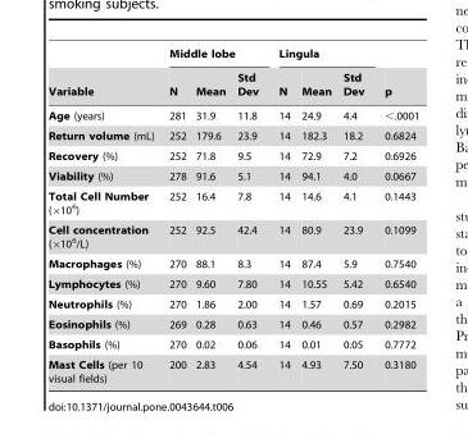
<table><thead><tr><td rowspan="2">Variable</td><td colspan="3">Middle lobe</td><td colspan="3">Lingula</td><td rowspan="2">p</td></tr><tr><td>N</td><td>Mean</td><td>Std Dev</td><td>N</td><td>Mean</td><td>Std Dev</td></tr></thead><tbody><tr><td>Age (years)</td><td>281</td><td>31.9</td><td>11.8</td><td>14</td><td>24.9</td><td>4.4</td><td>&lt;.0001</td></tr><tr><td>Return volume (mL)</td><td>252</td><td>179.6</td><td>23.9</td><td>14</td><td>182.3</td><td>18.2</td><td>0.6824</td></tr><tr><td>Recovery (%)</td><td>252</td><td>71.8</td><td>9.5</td><td>14</td><td>72.9</td><td>7.2</td><td>0.6926</td></tr><tr><td>Viability (%)</td><td>278</td><td>91.6</td><td>5.1</td><td>14</td><td>94.1</td><td>4.0</td><td>0.0667</td></tr><tr><td>Total Cell Number (×10<sup>6</sup>)</td><td>252</td><td>16.4</td><td>7.8</td><td>14</td><td>14.6</td><td>4.1</td><td>0.1443</td></tr><tr><td>Cell concentration (×10<sup>6</sup>/L)</td><td>252</td><td>92.5</td><td>42.4</td><td>14</td><td>80.9</td><td>23.9</td><td>0.1099</td></tr><tr><td>Macrophages (%)</td><td>270</td><td>88.1</td><td>8.3</td><td>14</td><td>87.4</td><td>5.9</td><td>0.7540</td></tr><tr><td>Lymphocytes (%)</td><td>270</td><td>9.60</td><td>7.80</td><td>14</td><td>10.55</td><td>5.42</td><td>0.6540</td></tr><tr><td>Neutrophils (%)</td><td>270</td><td>1.86</td><td>2.00</td><td>14</td><td>1.57</td><td>0.69</td><td>0.2015</td></tr><tr><td>Eosinophils (%)</td><td>269</td><td>0.28</td><td>0.63</td><td>14</td><td>0.46</td><td>0.57</td><td>0.2982</td></tr><tr><td>Basophils (%)</td><td>270</td><td>0.02</td><td>0.06</td><td>14</td><td>0.01</td><td>0.05</td><td>0.7772</td></tr><tr><td>Mast Cells (per 10 visual fields)</td><td>200</td><td>2.83</td><td>4.54</td><td>14</td><td>4.93</td><td>7.50</td><td>0.3180</td></tr></tbody></table>